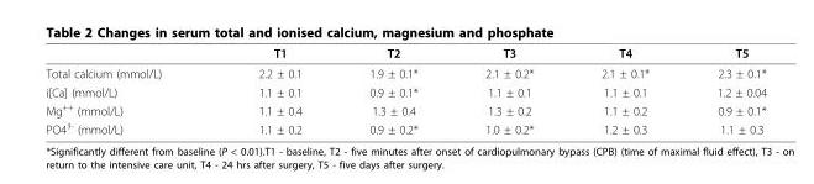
<table><thead><tr><td></td><td>T1</td><td>T2</td><td>T3</td><td>T4</td><td>T5</td></tr></thead><tbody><tr><td>Total calcium (mmol/L)</td><td>2.2 ± 0.1</td><td>1.9 ± 0.1*</td><td>2.1 ± 0.2*</td><td>2.1 ± 0.1*</td><td>2.3 ± 0.1*</td></tr><tr><td>i[Ca] (mmol/L)</td><td>1.1 ± 0.1</td><td>0.9 ± 0.1*</td><td>1.1 ± 0.1</td><td>1.1 ± 0.1</td><td>1.2 ± 0.04</td></tr><tr><td>Mg<sup>++</sup> (mmol/L)</td><td>1.1 ± 0.4</td><td>1.3 ± 0.4</td><td>1.3 ± 0.2</td><td>1.1 ± 0.2</td><td>0.9 ± 0.1*</td></tr><tr><td>PO4<sup>3-</sup> (mmol/L)</td><td>1.1 ± 0.2</td><td>0.9 ± 0.2*</td><td>1.0 ± 0.2*</td><td>1.2 ± 0.3</td><td>1.1 ± 0.3</td></tr></tbody></table>